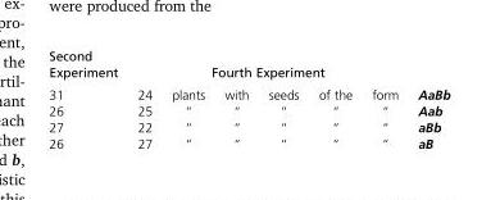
<table><thead><tr><td rowspan="2">Second Experiment 31</td><td colspan="6">Fourth Experiment</td><td rowspan="2">AaBb</td></tr><tr><td>24</td><td>plants</td><td>with</td><td>seeds</td><td>of the</td><td>form</td></tr></thead><tbody><tr><td>26</td><td>25</td><td>“</td><td>“</td><td>“</td><td>“</td><td>“</td><td>Aab</td></tr><tr><td>27</td><td>22</td><td>“</td><td>“</td><td>“</td><td>“</td><td>“</td><td>aBb</td></tr><tr><td>26</td><td>27</td><td>“</td><td>“</td><td>“</td><td>“</td><td>“</td><td>aB</td></tr></tbody></table>